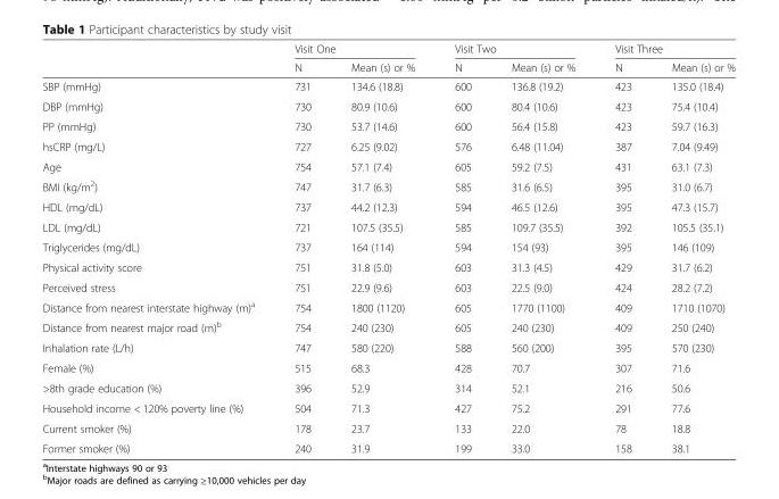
<table><thead><tr><td rowspan="2"></td><td colspan="2">Visit One</td><td colspan="2">Visit Two</td><td colspan="2">Visit Three</td></tr><tr><td>N</td><td>Mean (s) or %</td><td>N</td><td>Mean (s) or %</td><td>N</td><td>Mean (s) or %</td></tr></thead><tbody><tr><td>SBP (mmHg)</td><td>731</td><td>134.6 (18.8)</td><td>600</td><td>136.8 (19.2)</td><td>423</td><td>135.0 (18.4)</td></tr><tr><td>DBP (mmHg)</td><td>730</td><td>80.9 (10.6)</td><td>600</td><td>80.4 (10.6)</td><td>423</td><td>75.4 (10.4)</td></tr><tr><td>PP (mmHg)</td><td>730</td><td>53.7 (14.6)</td><td>600</td><td>56.4 (15.8)</td><td>423</td><td>59.7 (16.3)</td></tr><tr><td>hsCRP (mg/L)</td><td>727</td><td>6.25 (9.02)</td><td>576</td><td>6.48 (11.04)</td><td>387</td><td>7.04 (9.49)</td></tr><tr><td>Age</td><td>754</td><td>57.1 (7.4)</td><td>605</td><td>59.2 (7.5)</td><td>431</td><td>63.1 (7.3)</td></tr><tr><td>BMI (kg/m<sup>2</sup>)</td><td>747</td><td>31.7 (6.3)</td><td>585</td><td>31.6 (6.5)</td><td>395</td><td>31.0 (6.7)</td></tr><tr><td>HDL (mg/dL)</td><td>737</td><td>44.2 (12.3)</td><td>594</td><td>46.5 (12.6)</td><td>395</td><td>47.3 (15.7)</td></tr><tr><td>LDL (mg/dL)</td><td>721</td><td>107.5 (35.5)</td><td>585</td><td>109.7 (35.5)</td><td>392</td><td>105.5 (35.1)</td></tr><tr><td>Triglycerides (mg/dL)</td><td>737</td><td>164 (114)</td><td>594</td><td>154 (93)</td><td>395</td><td>146 (109)</td></tr><tr><td>Physical activity score</td><td>751</td><td>31.8 (5.0)</td><td>603</td><td>31.3 (4.5)</td><td>429</td><td>31.7 (6.2)</td></tr><tr><td>Perceived stress</td><td>751</td><td>22.9 (9.6)</td><td>603</td><td>22.5 (9.0)</td><td>424</td><td>28.2 (7.2)</td></tr><tr><td>Distance from nearest interstate highway (m)<sup>a</sup></td><td>754</td><td>1800 (1120)</td><td>605</td><td>1770 (1100)</td><td>409</td><td>1710 (1070)</td></tr><tr><td>Distance from nearest major road (m)<sup>b</sup></td><td>754</td><td>240 (230)</td><td>605</td><td>240 (230)</td><td>409</td><td>250 (240)</td></tr><tr><td>Inhalation rate (L/h)</td><td>747</td><td>580 (220)</td><td>588</td><td>560 (200)</td><td>395</td><td>570 (230)</td></tr><tr><td>Female (%)</td><td>515</td><td>68.3</td><td>428</td><td>70.7</td><td>307</td><td>71.6</td></tr><tr><td>&gt;8th grade education (%)</td><td>396</td><td>52.9</td><td>314</td><td>52.1</td><td>216</td><td>50.6</td></tr><tr><td>Household income &lt; 120% poverty line (%)</td><td>504</td><td>71.3</td><td>427</td><td>75.2</td><td>291</td><td>77.6</td></tr><tr><td>Current smoker (%)</td><td>178</td><td>23.7</td><td>133</td><td>22.0</td><td>78</td><td>18.8</td></tr><tr><td>Former smoker (%)</td><td>240</td><td>31.9</td><td>199</td><td>33.0</td><td>158</td><td>38.1</td></tr></tbody></table>